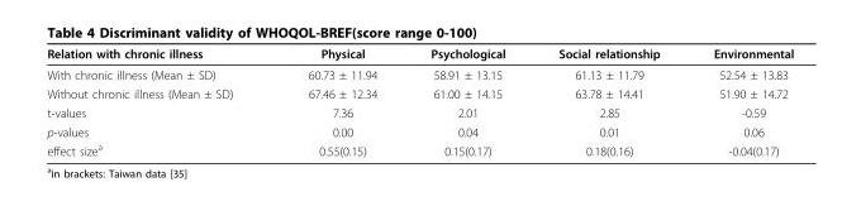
<table><tbody><tr><td>Relation with chronic illness</td><td>Physical</td><td>Psychological</td><td>Social relationship</td><td>Environmental</td></tr><tr><td>With chronic illness (Mean ± SD)</td><td>60.73 ± 11.94</td><td>58.91 ± 13.15</td><td>61.13 ± 11.79</td><td>52.54 ± 13.83</td></tr><tr><td>Without chronic illness (Mean ± SD)</td><td>67.46 ± 12.34</td><td>61.00 ± 14.15</td><td>63.78 ± 14.41</td><td>51.90 ± 14.72</td></tr><tr><td>t-values</td><td>7.36</td><td>2.01</td><td>2.85</td><td>-0.59</td></tr><tr><td>p-values</td><td>0.00</td><td>0.04</td><td>0.01</td><td>0.06</td></tr><tr><td>effect size<sup>a</sup></td><td>0.55(0.15)</td><td>0.15(0.17)</td><td>0.18(0.16)</td><td>-0.04(0.17)</td></tr></tbody></table>